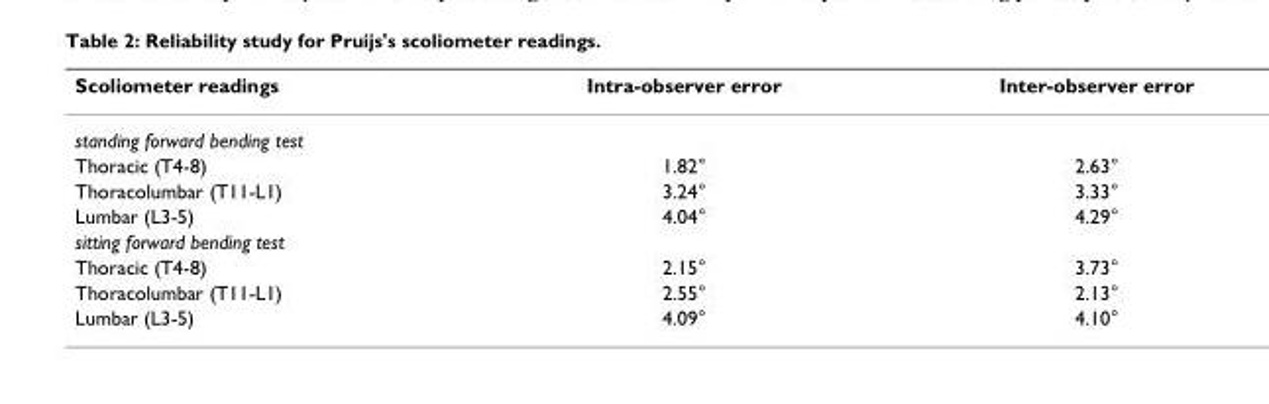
<table><thead><tr><td>Scoliometer readings</td><td>Intra-observer error</td><td>Inter-observer error</td></tr></thead><tbody><tr><td colspan="3">standing forward bending test</td></tr><tr><td>Thoracic (T4-8)</td><td>1.82°</td><td>2.63°</td></tr><tr><td>Thoracolumbar (T11-L1)</td><td>3.24°</td><td>3.33°</td></tr><tr><td>Lumbar (L3-5)</td><td>4.04°</td><td>4.29°</td></tr><tr><td colspan="3">sitting forward bending test</td></tr><tr><td>Thoracic (T4-8)</td><td>2.15°</td><td>3.73°</td></tr><tr><td>Thoracolumbar (T11-L1)</td><td>2.55°</td><td>2.13°</td></tr><tr><td>Lumbar (L3-5)</td><td>4.09°</td><td>4.10°</td></tr></tbody></table>